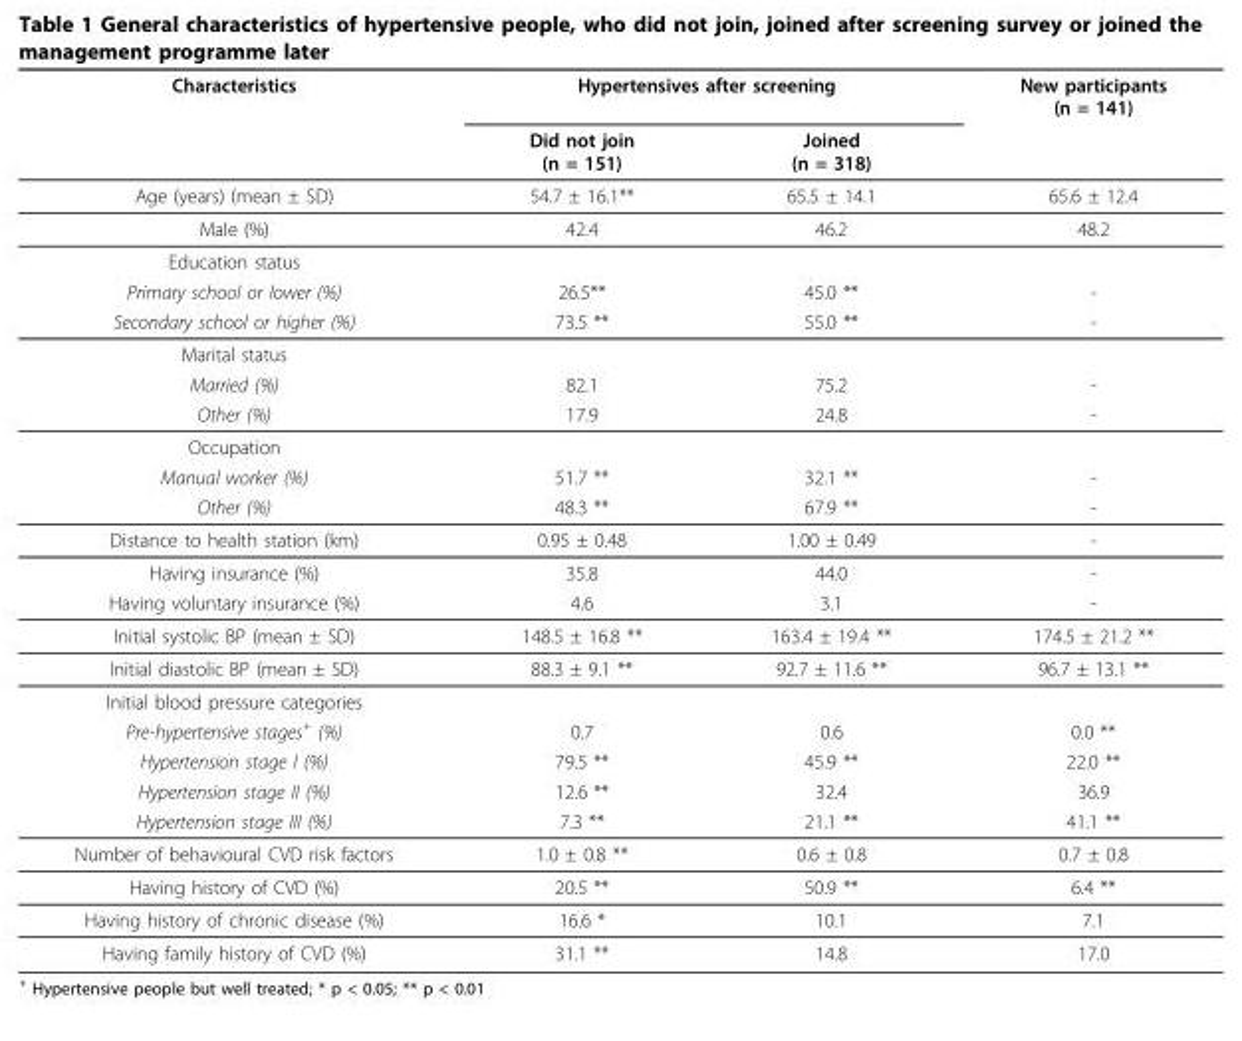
<table><thead><tr><td rowspan="2">Characteristics</td><td colspan="2">Hypertensives after screening</td><td rowspan="2">New participants (n = 141)</td></tr><tr><td>Did not join (n = 151)</td><td>Joined (n = 318)</td></tr></thead><tbody><tr><td>Age (years) (mean ± SD)</td><td>54.7 ± 16.1**</td><td>65.5 ± 14.1</td><td>65.6 ± 12.4</td></tr><tr><td>Male (%)</td><td>42.4</td><td>46.2</td><td>48.2</td></tr><tr><td colspan="4">Education status</td></tr><tr><td>Primary school or lower (%)</td><td>26.5**</td><td>45.0 **</td><td>-</td></tr><tr><td>Secondary school or higher (%)</td><td>73.5 **</td><td>55.0 **</td><td>-</td></tr><tr><td colspan="4">Marital status</td></tr><tr><td>Married (%)</td><td>82.1</td><td>75.2</td><td>-</td></tr><tr><td>Other (%)</td><td>17.9</td><td>24.8</td><td>-</td></tr><tr><td colspan="4">Occupation</td></tr><tr><td>Manual worker (%)</td><td>51.7 **</td><td>32.1 **</td><td>-</td></tr><tr><td>Other (%)</td><td>48.3 **</td><td>67.9 **</td><td>-</td></tr><tr><td>Distance to health station (km)</td><td>0.95 ± 0.48</td><td>1.00 ± 0.49</td><td>-</td></tr><tr><td>Having insurance (%)</td><td>35.8</td><td>44.0</td><td>-</td></tr><tr><td>Having voluntary insurance (%)</td><td>4.6</td><td>3.1</td><td>-</td></tr><tr><td>Initial systolic BP (mean ± SD)</td><td>148.5 ± 16.8 **</td><td>163.4 ± 19.4 **</td><td>174.5 ± 21.2 **</td></tr><tr><td>Initial diastolic BP (mean ± SD)</td><td>88.3 ± 9.1 **</td><td>92.7 ± 11.6 **</td><td>96.7 ± 13.1 **</td></tr><tr><td colspan="4">Initial blood pressure categories</td></tr><tr><td>Pre-hypertensive stages<sup>+</sup> (%)</td><td>0.7</td><td>0.6</td><td>0.0 **</td></tr><tr><td>Hypertension stage I (%)</td><td>79.5 **</td><td>45.9 **</td><td>22.0 **</td></tr><tr><td>Hypertension stage II (%)</td><td>12.6 **</td><td>32.4</td><td>36.9</td></tr><tr><td>Hypertension stage III (%)</td><td>7.3 **</td><td>21.1 **</td><td>41.1 **</td></tr><tr><td>Number of behavioural CVD risk factors</td><td>1.0 ± 0.8 **</td><td>0.6 ± 0.8</td><td>0.7 ± 0.8</td></tr><tr><td>Having history of CVD (%)</td><td>20.5 **</td><td>50.9 **</td><td>6.4 **</td></tr><tr><td>Having history of chronic disease (%)</td><td>16.6 *</td><td>10.1</td><td>7.1</td></tr><tr><td>Having family history of CVD (%)</td><td>31.1 **</td><td>14.8</td><td>17.0</td></tr></tbody></table>